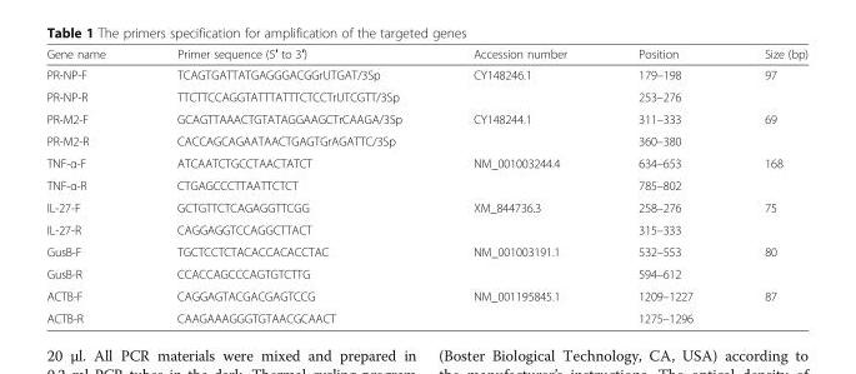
<table><thead><tr><td>Gene name</td><td>Primer sequence (5′ to 3′)</td><td>Accession number</td><td>Position</td><td>Size (bp)</td></tr></thead><tbody><tr><td>PR-NP-F</td><td>TCAGTGATTATGAGGGACGGrUTGAT/3Sp</td><td rowspan="2">CY148246.1</td><td>179–198</td><td rowspan="2">97</td></tr><tr><td>PR-NP-R</td><td>TTCTTCCAGGTATTTATTTCTCCTrUTCGTT/3Sp</td><td>253–276</td></tr><tr><td>PR-M2-F</td><td>GCAGTTAAACTGTATAGGAAGCTrCAAGA/3Sp</td><td>CY148244.1</td><td>311–333</td><td>69</td></tr><tr><td>PR-M2-R</td><td>CACCAGCAGAATAACTGAGTGrAGATTC/3Sp</td><td></td><td>360–380</td><td></td></tr><tr><td>TNF-α-F</td><td>ATCAATCTGCCTAACTATCT</td><td rowspan="2">NM_001003244.4</td><td>634–653</td><td rowspan="2">168</td></tr><tr><td>TNF-α-R</td><td>CTGAGCCCTTAATTCTCT</td><td>785–802</td></tr><tr><td>IL-27-F</td><td>GCTGTTCTCAGAGGTTCGG</td><td rowspan="2">XM_844736.3</td><td>258–276</td><td rowspan="2">75</td></tr><tr><td>IL-27-R</td><td>CAGGAGGTCCAGGCTTACT</td><td>315–333</td></tr><tr><td>GusB-F</td><td>TGCTCCTCTACACCACACCTAC</td><td rowspan="2">NM_001003191.1</td><td>532–553</td><td rowspan="2">80</td></tr><tr><td>GusB-R</td><td>CCACCAGCCCAGTGTCTTG</td><td>594–612</td></tr><tr><td>ACTB-F</td><td>CAGGAGTACGACGAGTCCG</td><td rowspan="2">NM_001195845.1</td><td>1209–1227</td><td rowspan="2">87</td></tr><tr><td>ACTB-R</td><td>CAAGAAAGGGTGTAACGCAACT</td><td>1275–1296</td></tr></tbody></table>